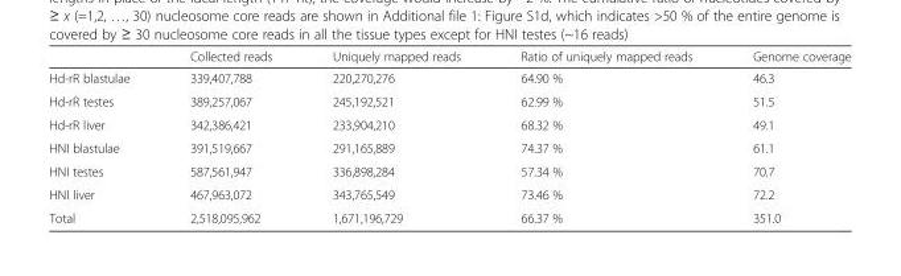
<table><thead><tr><td></td><td>Collected reads</td><td>Uniquely mapped reads</td><td>Ratio of uniquely mapped reads</td><td>Genome coverage</td></tr></thead><tbody><tr><td>Hd-rR blastulae</td><td>339,407,788</td><td>220,270,276</td><td>64.90 %</td><td>46.3</td></tr><tr><td>Hd-rR testes</td><td>389,257,067</td><td>245,192,521</td><td>62.99 %</td><td>51.5</td></tr><tr><td>Hd-rR liver</td><td>342,386,421</td><td>233,904,210</td><td>68.32 %</td><td>49.1</td></tr><tr><td>HNI blastulae</td><td>391,519,667</td><td>291,165,889</td><td>74.37 %</td><td>61.1</td></tr><tr><td>HNI testes</td><td>587,561,947</td><td>336,898,284</td><td>57.34 %</td><td>70.7</td></tr><tr><td>HNI liver</td><td>467,963,072</td><td>343,765,549</td><td>73.46 %</td><td>72.2</td></tr><tr><td>Total</td><td>2,518,095,962</td><td>1,671,196,729</td><td>66.37 %</td><td>351.0</td></tr></tbody></table>